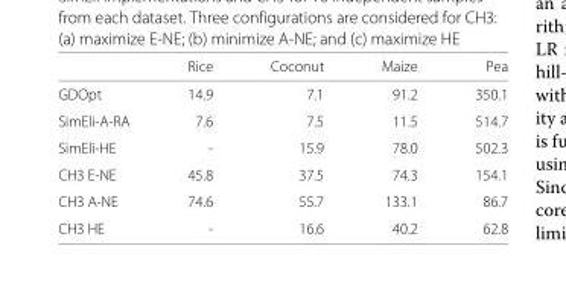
<table><thead><tr><td></td><td>Rice</td><td>Coconut</td><td>Maize</td><td>Pea</td></tr></thead><tbody><tr><td>GDOpt</td><td>14.9</td><td>7.1</td><td>91.2</td><td>350.1</td></tr><tr><td>SimEli-A-RA</td><td>7.6</td><td>7.5</td><td>11.5</td><td>514.7</td></tr><tr><td>SimEli-HE</td><td>-</td><td>15.9</td><td>78.0</td><td>502.3</td></tr><tr><td>CH3 E-NE</td><td>45.8</td><td>37.5</td><td>74.3</td><td>154.1</td></tr><tr><td>CH3 A-NE</td><td>74.6</td><td>55.7</td><td>133.1</td><td>86.7</td></tr><tr><td>CH3 HE</td><td>-</td><td>16.6</td><td>40.2</td><td>62.8</td></tr></tbody></table>